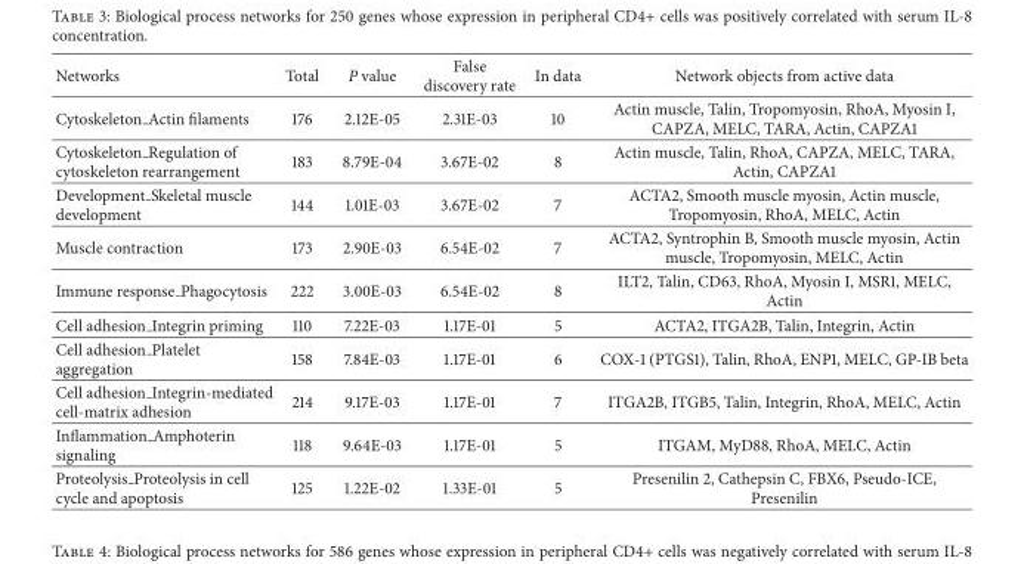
<table><thead><tr><td>Networks</td><td>Total</td><td>P value</td><td>False discovery rate</td><td>In data</td><td>Network objects from active data</td></tr></thead><tbody><tr><td>Cytoskeleton Actin filaments</td><td>176</td><td>2.12E-05</td><td>2.31E-03</td><td>10</td><td>Actin muscle, Talin, Tropomyosin, RhoA, Myosin I, CAPZA, MELC, TARA, Actin, CAPZA1</td></tr><tr><td>Cytoskeleton Regulation of cytoskeleton rearrangement</td><td>183</td><td>8.79E-04</td><td>3.67E-02</td><td>8</td><td>Actin muscle, Talin, RhoA, CAPZA, MELC, TARA, Actin, CAPZA1</td></tr><tr><td>Development Skeletal muscle development</td><td>144</td><td>1.01E-03</td><td>3.67E-02</td><td>7</td><td>ACTA2, Smooth muscle myosin, Actin muscle, Tropomyosin, RhoA, MELC, Actin</td></tr><tr><td>Muscle contraction</td><td>173</td><td>2.90E-03</td><td>6.54E-02</td><td>7</td><td>ACTA2, Syntrophin B, Smooth muscle myosin, Actin muscle, Tropomyosin, MELC, Actin</td></tr><tr><td>Immune response Phagocytosis</td><td>222</td><td>3.00E-03</td><td>6.54E-02</td><td>8</td><td>ILT2, Talin, CD63, RhoA, Myosin I, MSR1, MELC, Actin</td></tr><tr><td>Cell adhesion Integrin priming</td><td>110</td><td>7.22E-03</td><td>1.17E-01</td><td>5</td><td>ACTA2, ITGA2B, Talin, Integrin, Actin</td></tr><tr><td>Cell adhesion Platelet aggregation</td><td>158</td><td>7.84E-03</td><td>1.17E-01</td><td>6</td><td>COX-1 (PTGS1), Talin, RhoA, ENP1, MELC, GP-IB beta</td></tr><tr><td>Cell adhesion Integrin-mediated cell-matrix adhesion</td><td>214</td><td>9.17E-03</td><td>1.17E-01</td><td>7</td><td>ITGA2B, ITGB5, Talin, Integrin, RhoA, MELC, Actin</td></tr><tr><td>Inflammation Amphoterin signaling</td><td>118</td><td>9.64E-03</td><td>1.17E-01</td><td>5</td><td>ITGAM, MyD88, RhoA, MELC, Actin</td></tr><tr><td>Proteolysis Proteolysis in cell cycle and apoptosis</td><td>125</td><td>1.22E-02</td><td>1.33E-01</td><td>5</td><td>Presenilin 2, Cathepsin C, FBX6, Pseudo-ICE, Presenilin</td></tr></tbody></table>